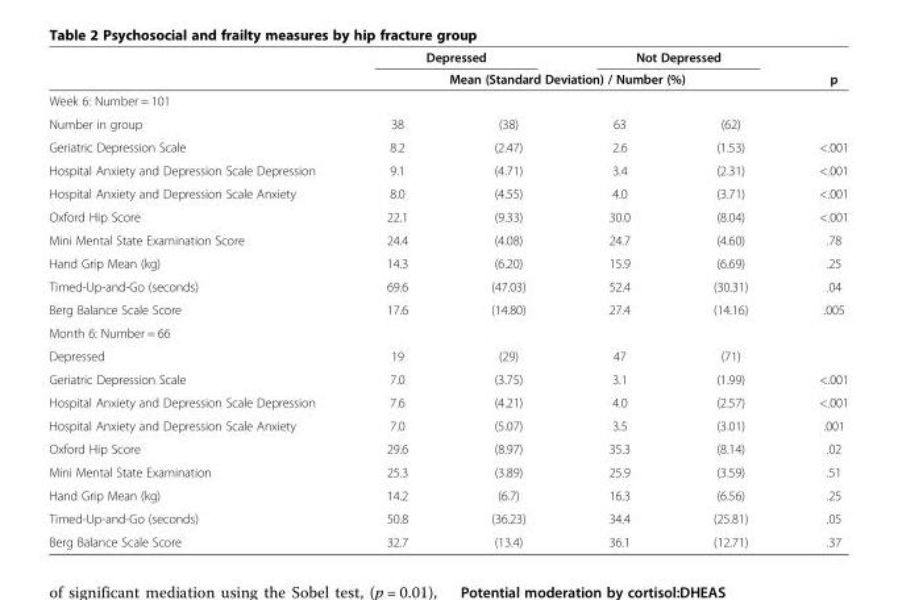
<table><thead><tr><td rowspan="3">Week 6: Number = 101</td><td colspan="2">Depressed</td><td colspan="2">Not Depressed</td><td rowspan="3">p</td></tr><tr><td colspan="4">Mean (Standard Deviation) / Number (%)</td></tr><tr><td></td><td></td><td></td><td></td></tr></thead><tbody><tr><td>Number in group</td><td>38</td><td>(38)</td><td>63</td><td>(62)</td><td></td></tr><tr><td>Geriatric Depression Scale</td><td>8.2</td><td>(2.47)</td><td>2.6</td><td>(1.53)</td><td>&lt;.001</td></tr><tr><td>Hospital Anxiety and Depression Scale Depression</td><td>9.1</td><td>(4.71)</td><td>3.4</td><td>(2.31)</td><td>&lt;.001</td></tr><tr><td>Hospital Anxiety and Depression Scale Anxiety</td><td>8.0</td><td>(4.55)</td><td>4.0</td><td>(3.71)</td><td>&lt;.001</td></tr><tr><td>Oxford Hip Score</td><td>22.1</td><td>(9.33)</td><td>30.0</td><td>(8.04)</td><td>&lt;.001</td></tr><tr><td>Mini Mental State Examination Score</td><td>24.4</td><td>(4.08)</td><td>24.7</td><td>(4.60)</td><td>.78</td></tr><tr><td>Hand Grip Mean (kg)</td><td>14.3</td><td>(6.20)</td><td>15.9</td><td>(6.69)</td><td>.25</td></tr><tr><td>Timed-Up-and-Go (seconds)</td><td>69.6</td><td>(47.03)</td><td>52.4</td><td>(30.31)</td><td>.04</td></tr><tr><td>Berg Balance Scale Score</td><td>17.6</td><td>(14.80)</td><td>27.4</td><td>(14.16)</td><td>.005</td></tr><tr><td colspan="6">Month 6: Number = 66</td></tr><tr><td>Depressed</td><td>19</td><td>(29)</td><td>47</td><td>(71)</td><td></td></tr><tr><td>Geriatric Depression Scale</td><td>7.0</td><td>(3.75)</td><td>3.1</td><td>(1.99)</td><td>&lt;.001</td></tr><tr><td>Hospital Anxiety and Depression Scale Depression</td><td>7.6</td><td>(4.21)</td><td>4.0</td><td>(2.57)</td><td>&lt;.001</td></tr><tr><td>Hospital Anxiety and Depression Scale Anxiety</td><td>7.0</td><td>(5.07)</td><td>3.5</td><td>(3.01)</td><td>.001</td></tr><tr><td>Oxford Hip Score</td><td>29.6</td><td>(8.97)</td><td>35.3</td><td>(8.14)</td><td>.02</td></tr><tr><td>Mini Mental State Examination</td><td>25.3</td><td>(3.89)</td><td>25.9</td><td>(3.59)</td><td>.51</td></tr><tr><td>Hand Grip Mean (kg)</td><td>14.2</td><td>(6.7)</td><td>16.3</td><td>(6.56)</td><td>.25</td></tr><tr><td>Timed-Up-and-Go (seconds)</td><td>50.8</td><td>(36.23)</td><td>34.4</td><td>(25.81)</td><td>.05</td></tr><tr><td>Berg Balance Scale Score</td><td>32.7</td><td>(13.4)</td><td>36.1</td><td>(12.71)</td><td>.37</td></tr></tbody></table>